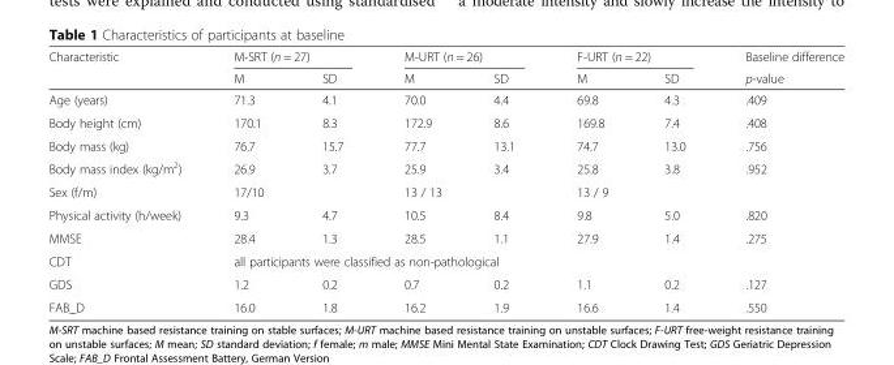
<table><thead><tr><td rowspan="2">Characteristic</td><td colspan="2">M-SRT (n = 27)</td><td colspan="2">M-URT (n = 26)</td><td colspan="2">F-URT (n = 22)</td><td rowspan="2">Baseline difference p-value</td></tr><tr><td>M</td><td>SD</td><td>M</td><td>SD</td><td>M</td><td>SD</td></tr></thead><tbody><tr><td>Age (years)</td><td>71.3</td><td>4.1</td><td>70.0</td><td>4.4</td><td>69.8</td><td>4.3</td><td>.409</td></tr><tr><td>Body height (cm)</td><td>170.1</td><td>8.3</td><td>172.9</td><td>8.6</td><td>169.8</td><td>7.4</td><td>.408</td></tr><tr><td>Body mass (kg)</td><td>76.7</td><td>15.7</td><td>77.7</td><td>13.1</td><td>74.7</td><td>13.0</td><td>.756</td></tr><tr><td>Body mass index (kg/m<sup>2</sup>)</td><td>26.9</td><td>3.7</td><td>25.9</td><td>3.4</td><td>25.8</td><td>3.8</td><td>.952</td></tr><tr><td>Sex (f/m)</td><td colspan="2">17/10</td><td colspan="2">13 / 13</td><td colspan="2">13 / 9</td><td></td></tr><tr><td>Physical activity (h/week)</td><td>9.3</td><td>4.7</td><td>10.5</td><td>8.4</td><td>9.8</td><td>5.0</td><td>.820</td></tr><tr><td>MMSE</td><td>28.4</td><td>1.3</td><td>28.5</td><td>1.1</td><td>27.9</td><td>1.4</td><td>.275</td></tr><tr><td>CDT</td><td colspan="7">all participants were classified as non-pathological</td></tr><tr><td>GDS</td><td>1.2</td><td>0.2</td><td>0.7</td><td>0.2</td><td>1.1</td><td>0.2</td><td>.127</td></tr><tr><td>FAB_D</td><td>16.0</td><td>1.8</td><td>16.2</td><td>1.9</td><td>16.6</td><td>1.4</td><td>.550</td></tr></tbody></table>